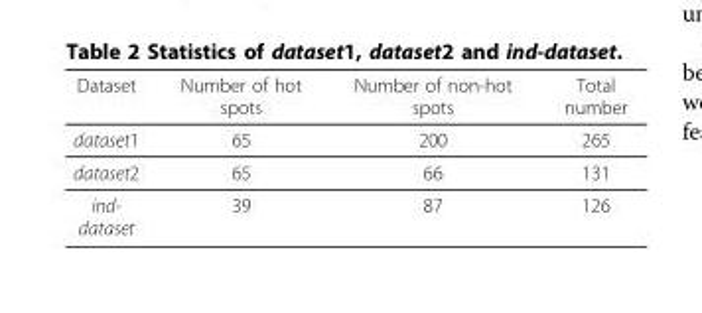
<table><thead><tr><td>Dataset</td><td>Number of hot spots</td><td>Number of non-hot spots</td><td>Total number</td></tr></thead><tbody><tr><td>dataset1</td><td>65</td><td>200</td><td>265</td></tr><tr><td>dataset2</td><td>65</td><td>66</td><td>131</td></tr><tr><td>ind- dataset</td><td>39</td><td>87</td><td>126</td></tr></tbody></table>